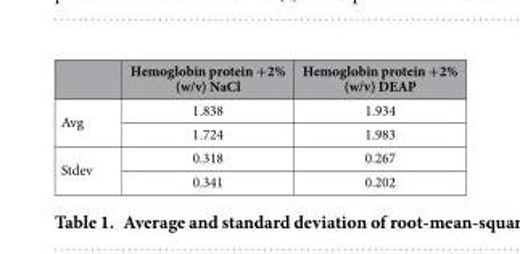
<table><thead><tr><td></td><td>Hemoglobin protein +2% (w/v) NaCl</td><td>Hemoglobin protein +2% (w/v) DEAP</td></tr></thead><tbody><tr><td rowspan="2">Avg</td><td>1.838</td><td>1.934</td></tr><tr><td>1.724</td><td>1.983</td></tr><tr><td rowspan="2">Stdev</td><td>0.318</td><td>0.267</td></tr><tr><td>0.341</td><td>0.202</td></tr></tbody></table>